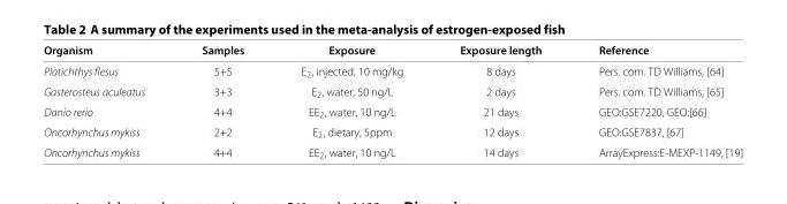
<table><thead><tr><td>Organism</td><td>Samples</td><td>Exposure</td><td>Exposure length</td><td>Reference</td></tr></thead><tbody><tr><td>Platichthys flesus</td><td>5+5</td><td>E<sub>2</sub>, injected, 10 mg/kg</td><td>8 days</td><td>Pers. com. TD Williams, [64]</td></tr><tr><td>Gasterosteus aculeatus</td><td>3+3</td><td>E<sub>2</sub>, water, 50 ng/L</td><td>2 days</td><td>Pers. com. TD Williams, [65]</td></tr><tr><td>Danio rerio</td><td>4+4</td><td>EE<sub>2</sub>, water, 10 ng/L</td><td>21 days</td><td>GEO:GSE7220, GEO:[66]</td></tr><tr><td>Oncorhynchus mykiss</td><td>2+2</td><td>E<sub>2</sub>, dietary, 5ppm</td><td>12 days</td><td>GEO:GSE7837, [67]</td></tr><tr><td>Oncorhynchus mykiss</td><td>4+4</td><td>EE<sub>2</sub>, water, 10 ng/L</td><td>14 days</td><td>ArrayExpress:E-MEXP-1149, [19]</td></tr></tbody></table>